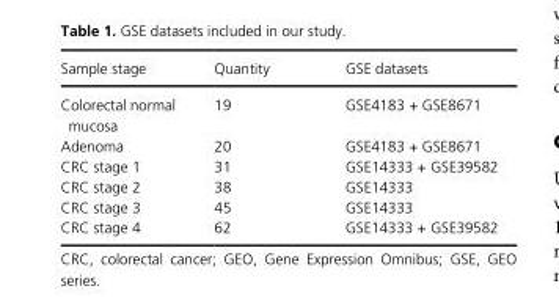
<table><thead><tr><td>Sample stage</td><td>Quantity</td><td>GSE datasets</td></tr></thead><tbody><tr><td>Colorectal normal mucosa</td><td>19</td><td>GSE4183 + GSE8671</td></tr><tr><td>Adenoma</td><td>20</td><td>GSE4183 + GSE8671</td></tr><tr><td>CRC stage 1</td><td>31</td><td>GSE14333 + GSE39582</td></tr><tr><td>CRC stage 2</td><td>38</td><td>GSE14333</td></tr><tr><td>CRC stage 3</td><td>45</td><td>GSE14333</td></tr><tr><td>CRC stage 4</td><td>62</td><td>GSE14333 + GSE39582</td></tr></tbody></table>